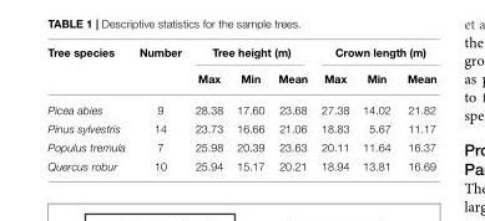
<table><thead><tr><td rowspan="2">Tree species</td><td rowspan="2">Number</td><td colspan="3">Tree height (m)</td><td colspan="3">Crown length (m)</td></tr><tr><td>Max</td><td>Min</td><td>Mean</td><td>Max</td><td>Min</td><td>Mean</td></tr></thead><tbody><tr><td>Picea abies</td><td>9</td><td>28.38</td><td>17.60</td><td>23.68</td><td>27.38</td><td>14.02</td><td>21.82</td></tr><tr><td>Pinus sylvestris</td><td>14</td><td>23.73</td><td>16.66</td><td>21.06</td><td>18.83</td><td>5.67</td><td>11.17</td></tr><tr><td>Populus tremula</td><td>7</td><td>25.98</td><td>20.39</td><td>23.63</td><td>20.11</td><td>11.64</td><td>16.37</td></tr><tr><td>Quercus robur</td><td>10</td><td>25.94</td><td>15.17</td><td>20.21</td><td>18.94</td><td>13.81</td><td>16.69</td></tr></tbody></table>